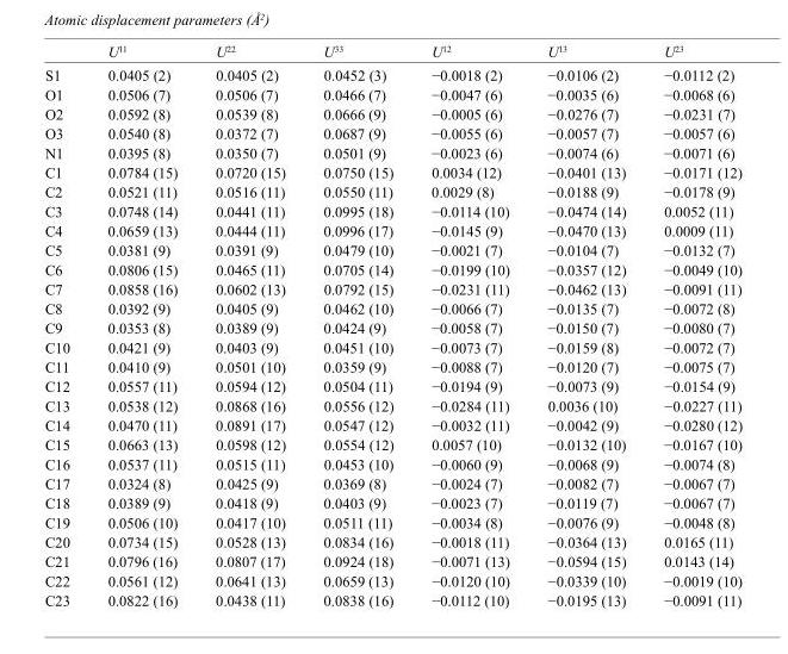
<table><thead><tr><td></td><td>U<sup>11</sup></td><td>U<sup>22</sup></td><td>U<sup>33</sup></td><td>U<sup>12</sup></td><td>U<sup>13</sup></td><td>U<sup>23</sup></td></tr></thead><tbody><tr><td>S1</td><td>0.0405 (2)</td><td>0.0405 (2)</td><td>0.0452 (3)</td><td>−0.0018 (2)</td><td>−0.0106 (2)</td><td>−0.0112 (2)</td></tr><tr><td>O1</td><td>0.0506 (7)</td><td>0.0506 (7)</td><td>0.0466 (7)</td><td>−0.0047 (6)</td><td>−0.0035 (6)</td><td>−0.0068 (6)</td></tr><tr><td>O2</td><td>0.0592 (8)</td><td>0.0539 (8)</td><td>0.0666 (9)</td><td>−0.0005 (6)</td><td>−0.0276 (7)</td><td>−0.0231 (7)</td></tr><tr><td>O3</td><td>0.0540 (8)</td><td>0.0372 (7)</td><td>0.0687 (9)</td><td>−0.0055 (6)</td><td>−0.0057 (7)</td><td>−0.0057 (6)</td></tr><tr><td>N1</td><td>0.0395 (8)</td><td>0.0350 (7)</td><td>0.0501 (9)</td><td>−0.0023 (6)</td><td>−0.0074 (6)</td><td>−0.0071 (6)</td></tr><tr><td>C1</td><td>0.0784 (15)</td><td>0.0720 (15)</td><td>0.0750 (15)</td><td>0.0034 (12)</td><td>−0.0401 (13)</td><td>−0.0171 (12)</td></tr><tr><td>C2</td><td>0.0521 (11)</td><td>0.0516 (11)</td><td>0.0550 (11)</td><td>0.0029 (8)</td><td>−0.0188 (9)</td><td>−0.0178 (9)</td></tr><tr><td>C3</td><td>0.0748 (14)</td><td>0.0441 (11)</td><td>0.0995 (18)</td><td>−0.0114 (10)</td><td>−0.0474 (14)</td><td>0.0052 (11)</td></tr><tr><td>C4</td><td>0.0659 (13)</td><td>0.0444 (11)</td><td>0.0996 (17)</td><td>−0.0145 (9)</td><td>−0.0470 (13)</td><td>0.0009 (11)</td></tr><tr><td>C5</td><td>0.0381 (9)</td><td>0.0391 (9)</td><td>0.0479 (10)</td><td>−0.0021 (7)</td><td>−0.0104 (7)</td><td>−0.0132 (7)</td></tr><tr><td>C6</td><td>0.0806 (15)</td><td>0.0465 (11)</td><td>0.0705 (14)</td><td>−0.0199 (10)</td><td>−0.0357 (12)</td><td>−0.0049 (10)</td></tr><tr><td>C7</td><td>0.0858 (16)</td><td>0.0602 (13)</td><td>0.0792 (15)</td><td>−0.0231 (11)</td><td>−0.0462 (13)</td><td>−0.0091 (11)</td></tr><tr><td>C8</td><td>0.0392 (9)</td><td>0.0405 (9)</td><td>0.0462 (10)</td><td>−0.0066 (7)</td><td>−0.0135 (7)</td><td>−0.0072 (8)</td></tr><tr><td>C9</td><td>0.0353 (8)</td><td>0.0389 (9)</td><td>0.0424 (9)</td><td>−0.0058 (7)</td><td>−0.0150 (7)</td><td>−0.0080 (7)</td></tr><tr><td>C10</td><td>0.0421 (9)</td><td>0.0403 (9)</td><td>0.0451 (10)</td><td>−0.0073 (7)</td><td>−0.0159 (8)</td><td>−0.0072 (7)</td></tr><tr><td>C11</td><td>0.0410 (9)</td><td>0.0501 (10)</td><td>0.0359 (9)</td><td>−0.0088 (7)</td><td>−0.0120 (7)</td><td>−0.0075 (7)</td></tr><tr><td>C12</td><td>0.0557 (11)</td><td>0.0594 (12)</td><td>0.0504 (11)</td><td>−0.0194 (9)</td><td>−0.0073 (9)</td><td>−0.0154 (9)</td></tr><tr><td>C13</td><td>0.0538 (12)</td><td>0.0868 (16)</td><td>0.0556 (12)</td><td>−0.0284 (11)</td><td>0.0036 (10)</td><td>−0.0227 (11)</td></tr><tr><td>C14</td><td>0.0470 (11)</td><td>0.0891 (17)</td><td>0.0547 (12)</td><td>−0.0032 (11)</td><td>−0.0042 (9)</td><td>−0.0280 (12)</td></tr><tr><td>C15</td><td>0.0663 (13)</td><td>0.0598 (12)</td><td>0.0554 (12)</td><td>0.0057 (10)</td><td>−0.0132 (10)</td><td>−0.0167 (10)</td></tr><tr><td>C16</td><td>0.0537 (11)</td><td>0.0515 (11)</td><td>0.0453 (10)</td><td>−0.0060 (9)</td><td>−0.0068 (9)</td><td>−0.0074 (8)</td></tr><tr><td>C17</td><td>0.0324 (8)</td><td>0.0425 (9)</td><td>0.0369 (8)</td><td>−0.0024 (7)</td><td>−0.0082 (7)</td><td>−0.0067 (7)</td></tr><tr><td>C18</td><td>0.0389 (9)</td><td>0.0418 (9)</td><td>0.0403 (9)</td><td>−0.0023 (7)</td><td>−0.0119 (7)</td><td>−0.0067 (7)</td></tr><tr><td>C19</td><td>0.0506 (10)</td><td>0.0417 (10)</td><td>0.0511 (11)</td><td>−0.0034 (8)</td><td>−0.0076 (9)</td><td>−0.0048 (8)</td></tr><tr><td>C20</td><td>0.0734 (15)</td><td>0.0528 (13)</td><td>0.0834 (16)</td><td>−0.0018 (11)</td><td>−0.0364 (13)</td><td>0.0165 (11)</td></tr><tr><td>C21</td><td>0.0796 (16)</td><td>0.0807 (17)</td><td>0.0924 (18)</td><td>−0.0071 (13)</td><td>−0.0594 (15)</td><td>0.0143 (14)</td></tr><tr><td>C22</td><td>0.0561 (12)</td><td>0.0641 (13)</td><td>0.0659 (13)</td><td>−0.0120 (10)</td><td>−0.0339 (10)</td><td>−0.0019 (10)</td></tr><tr><td>C23</td><td>0.0822 (16)</td><td>0.0438 (11)</td><td>0.0838 (16)</td><td>−0.0112 (10)</td><td>−0.0195 (13)</td><td>−0.0091 (11)</td></tr></tbody></table>